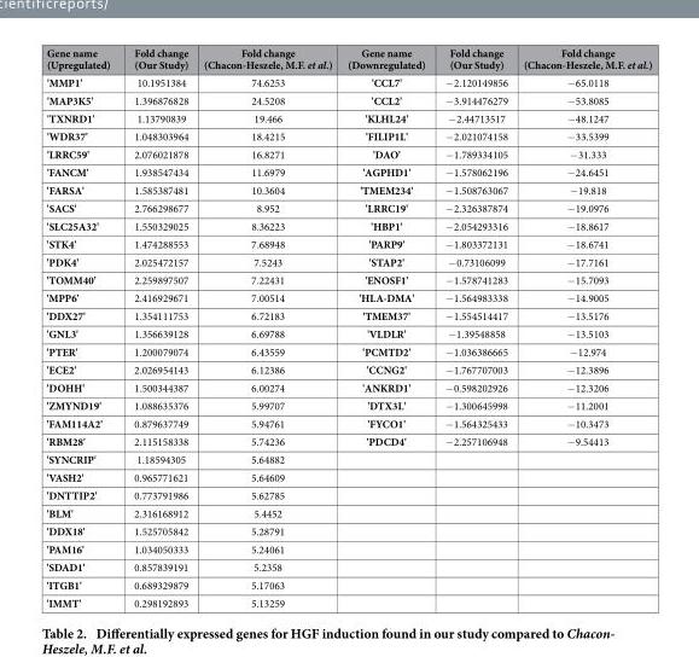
<table><thead><tr><td>Gene name (Upregulated)</td><td>Fold change (Our Study)</td><td>Fold change (Chacon-Heszele, M.F. et al.)</td><td>Gene name (Downregulated)</td><td>Fold change (Our Study)</td><td>Fold change (Chacon-Heszele, M.F. et al.)</td></tr></thead><tbody><tr><td>&#x27;MMP1&#x27;</td><td>10.1951384</td><td>74.6253</td><td>&#x27;CCL7&#x27;</td><td>− 2.120149856</td><td>− 65.0118</td></tr><tr><td>&#x27;MAP3K5&#x27;</td><td>1.396876828</td><td>24.5208</td><td>&#x27;CCL2&#x27;</td><td>− 3.914476279</td><td>− 53.8085</td></tr><tr><td>&#x27;TXNRD1&#x27;</td><td>1.13790839</td><td>19.466</td><td>&#x27;KLHL24&#x27;</td><td>− 2.44713517</td><td>− 48.1247</td></tr><tr><td>&#x27;WDR37&#x27;</td><td>1.048303964</td><td>18.4215</td><td>&#x27;FILIP1L&#x27;</td><td>− 2.021074158</td><td>− 33.5399</td></tr><tr><td>&#x27;LRRC59&#x27;</td><td>2.076021878</td><td>16.8271</td><td>&#x27;DAO&#x27;</td><td>− 1.789334105</td><td>− 31.333</td></tr><tr><td>&#x27;FANCM&#x27;</td><td>1.938547434</td><td>11.6979</td><td>&#x27;AGPHD1&#x27;</td><td>− 1.578062196</td><td>− 24.6451</td></tr><tr><td>&#x27;FARSA&#x27;</td><td>1.585387481</td><td>10.3604</td><td>&#x27;TMEM234&#x27;</td><td>− 1.508763067</td><td>− 19.818</td></tr><tr><td>&#x27;SACS&#x27;</td><td>2.766298677</td><td>8.952</td><td>&#x27;LRRC19&#x27;</td><td>− 2.326387874</td><td>− 19.0976</td></tr><tr><td>&#x27;SLC25A32&#x27;</td><td>1.550329025</td><td>8.36223</td><td>&#x27;HBP1&#x27;</td><td>− 2.054293316</td><td>− 18.8617</td></tr><tr><td>&#x27;STK4&#x27;</td><td>1.474288553</td><td>7.68948</td><td>&#x27;PARP9&#x27;</td><td>− 1.803372131</td><td>− 18.6741</td></tr><tr><td>&#x27;PDK4&#x27;</td><td>2.025472157</td><td>7.5243</td><td>&#x27;STAP2&#x27;</td><td>− 0.73106099</td><td>− 17.7161</td></tr><tr><td>&#x27;TOMM40&#x27;</td><td>2.259897507</td><td>7.22431</td><td>&#x27;ENOSF1&#x27;</td><td>− 1.578741283</td><td>− 15.7093</td></tr><tr><td>&#x27;MPP6&#x27;</td><td>2.416929671</td><td>7.00514</td><td>&#x27;HLA-DMA&#x27;</td><td>− 1.564983338</td><td>− 14.9005</td></tr><tr><td>&#x27;DDX27&#x27;</td><td>1.354111753</td><td>6.72183</td><td>&#x27;TMEM37&#x27;</td><td>− 1.554514417</td><td>− 13.5176</td></tr><tr><td>&#x27;GNL3&#x27;</td><td>1.356639128</td><td>6.69788</td><td>&#x27;VLDLR&#x27;</td><td>− 1.39548858</td><td>− 13.5103</td></tr><tr><td>&#x27;PTER&#x27;</td><td>1.200079074</td><td>6.43559</td><td>&#x27;PCMTD2&#x27;</td><td>− 1.036386665</td><td>− 12.974</td></tr><tr><td>&#x27;ECE2&#x27;</td><td>2.026954143</td><td>6.12386</td><td>&#x27;CCNG2&#x27;</td><td>− 1.767707003</td><td>− 12.3896</td></tr><tr><td>&#x27;DOHH&#x27;</td><td>1.500344387</td><td>6.00274</td><td>&#x27;ANKRD1&#x27;</td><td>− 0.598202926</td><td>− 12.3206</td></tr><tr><td>&#x27;ZMYND19&#x27;</td><td>1.088635376</td><td>5.99707</td><td>&#x27;DTX3L&#x27;</td><td>− 1.300645998</td><td>− 11.2001</td></tr><tr><td>&#x27;FAM114A2&#x27;</td><td>0.879637749</td><td>5.94761</td><td>&#x27;FYCO1&#x27;</td><td>− 1.564325433</td><td>− 10.3473</td></tr><tr><td>&#x27;RBM28&#x27;</td><td>2.115158338</td><td>5.74236</td><td>&#x27;PDCD4&#x27;</td><td>− 2.257106948</td><td>− 9.54413</td></tr><tr><td>&#x27;SYNCRIP&#x27;</td><td>1.18594305</td><td>5.64882</td><td></td><td></td><td></td></tr><tr><td>&#x27;VASH2&#x27;</td><td>0.965771621</td><td>5.64609</td><td></td><td></td><td></td></tr><tr><td>&#x27;DNTTIP2&#x27;</td><td>0.773791986</td><td>5.62785</td><td></td><td></td><td></td></tr><tr><td>&#x27;BLM&#x27;</td><td>2.316168912</td><td>5.4452</td><td></td><td></td><td></td></tr><tr><td>&#x27;DDX18&#x27;</td><td>1.525705842</td><td>5.28791</td><td></td><td></td><td></td></tr><tr><td>&#x27;PAM16&#x27;</td><td>1.034050333</td><td>5.24061</td><td></td><td></td><td></td></tr><tr><td>&#x27;SDAD1&#x27;</td><td>0.857839191</td><td>5.2358</td><td></td><td></td><td></td></tr><tr><td>&#x27;ITGB1&#x27;</td><td>0.689329879</td><td>5.17063</td><td></td><td></td><td></td></tr><tr><td>&#x27;IMMT&#x27;</td><td>0.298192893</td><td>5.13259</td><td></td><td></td><td></td></tr></tbody></table>